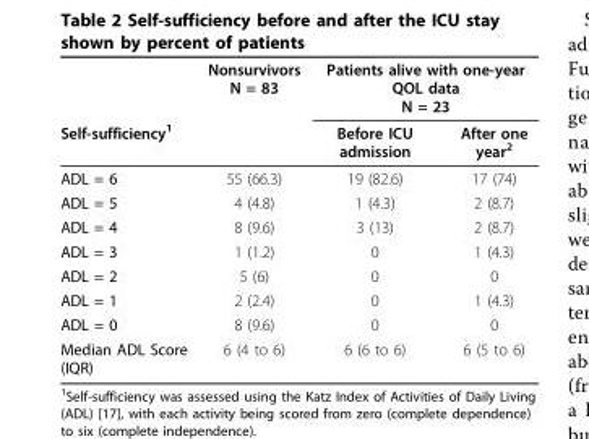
<table><thead><tr><td rowspan="2">Self-sufficiency<sup>1</sup></td><td rowspan="2">Nonsurvivors N = 83</td><td colspan="2">Patients alive with one-year QOL data N = 23</td></tr><tr><td>Before ICU admission</td><td>After one year<sup>2</sup></td></tr></thead><tbody><tr><td>ADL = 6</td><td>55 (66.3)</td><td>19 (82.6)</td><td>17 (74)</td></tr><tr><td>ADL = 5</td><td>4 (4.8)</td><td>1 (4.3)</td><td>2 (8.7)</td></tr><tr><td>ADL = 4</td><td>8 (9.6)</td><td>3 (13)</td><td>2 (8.7)</td></tr><tr><td>ADL = 3</td><td>1 (1.2)</td><td>0</td><td>1 (4.3)</td></tr><tr><td>ADL = 2</td><td>5 (6)</td><td>0</td><td>0</td></tr><tr><td>ADL = 1</td><td>2 (2.4)</td><td>0</td><td>1 (4.3)</td></tr><tr><td>ADL = 0</td><td>8 (9.6)</td><td>0</td><td>0</td></tr><tr><td>Median ADL Score (IQR)</td><td>6 (4 to 6)</td><td>6 (6 to 6)</td><td>6 (5 to 6)</td></tr></tbody></table>